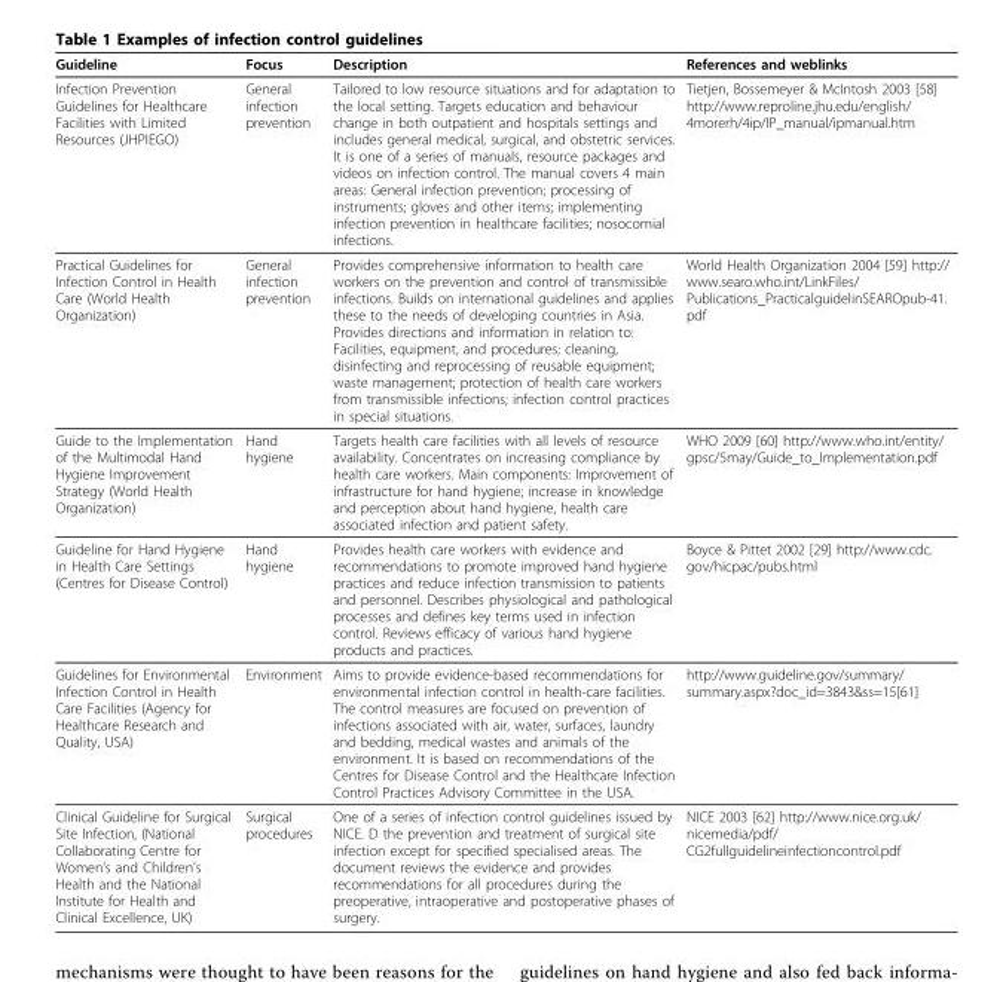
<table><thead><tr><td>Guideline</td><td>Focus</td><td>Description</td><td>References and weblinks</td></tr></thead><tbody><tr><td>Infection Prevention Guidelines for Healthcare Facilities with Limited Resources (JHPIEGO)</td><td>General infection prevention</td><td>Tailored to low resource situations and for adaptation to the local setting. Targets education and behaviour change in both outpatient and hospitals settings and includes general medical, surgical, and obstetric services. It is one of a series of manuals, resource packages and videos on infection control. The manual covers 4 main areas: General infection prevention; processing of instruments; gloves and other items; implementing infection prevention in healthcare facilities; nosocomial infections.</td><td>Tietjen, Bossemeyer &amp; McIntosh 2003 [58] http://www.reproline.jhu.edu/english/ 4morerh/4ip/IP_manual/ipmanual.htm</td></tr><tr><td>Practical Guidelines for Infection Control in Health Care (World Health Organization)</td><td>General infection prevention</td><td>Provides comprehensive information to health care workers on the prevention and control of transmissible infections. Builds on international guidelines and applies these to the needs of developing countries in Asia. Provides directions and information in relation to: Facilities, equipment, and procedures; cleaning, disinfecting and reprocessing of reusable equipment; waste management; protection of health care workers from transmissible infections; infection control practices in special situations.</td><td>World Health Organization 2004 [59] http:// www.searo.who.int/LinkFiles/ Publications_PracticalguidelinSEAROpub-41. pdf</td></tr><tr><td>Guide to the Implementation of the Multimodal Hand Hygiene Improvement Strategy (World Health Organization)</td><td>Hand hygiene</td><td>Targets health care facilities with all levels of resource availability. Concentrates on increasing compliance by health care workers. Main components: Improvement of infrastructure for hand hygiene; increase in knowledge and perception about hand hygiene, health care associated infection and patient safety.</td><td>WHO 2009 [60] http://www.who.int/entity/ gpsc/5may/Guide_to_Implementation.pdf</td></tr><tr><td>Guideline for Hand Hygiene in Health Care Settings (Centres for Disease Control)</td><td>Hand hygiene</td><td>Provides health care workers with evidence and recommendations to promote improved hand hygiene practices and reduce infection transmission to patients and personnel. Describes physiological and pathological processes and defines key terms used in infection control. Reviews efficacy of various hand hygiene products and practices.</td><td>Boyce &amp; Pittet 2002 [29] http://www.cdc. gov/hicpac/pubs.html</td></tr><tr><td>Guidelines for Environmental Infection Control in Health Care Facilities (Agency for Healthcare Research and Quality, USA)</td><td>Environment</td><td>Aims to provide evidence-based recommendations for environmental infection control in health-care facilities. The control measures are focused on prevention of infections associated with air, water, surfaces, laundry and bedding, medical wastes and animals of the environment. It is based on recommendations of the Centres for Disease Control and the Healthcare Infection Control Practices Advisory Committee in the USA.</td><td>http://www.guideline.gov/summary/ summary.aspx?doc_id=3843&amp;ss=15[61]</td></tr><tr><td>Clinical Guideline for Surgical Site Infection, (National Collaborating Centre for Women’s and Children’s Health and the National Institute for Health and Clinical Excellence, UK)</td><td>Surgical procedures</td><td>One of a series of infection control guidelines issued by NICE. D the prevention and treatment of surgical site infection except for specified specialised areas. The document reviews the evidence and provides recommendations for all procedures during the preoperative, intraoperative and postoperative phases of surgery.</td><td>NICE 2003 [62] http://www.nice.org.uk/ nicemedia/pdf/ CG2fullguidelineinfectioncontrol.pdf</td></tr></tbody></table>